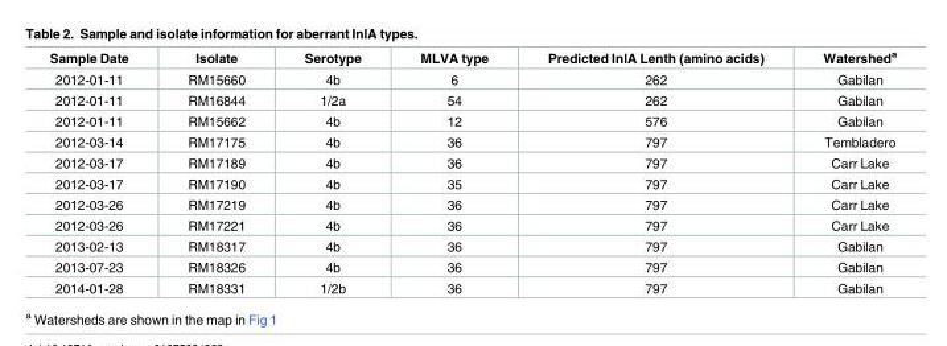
<table><thead><tr><td>Sample Date</td><td>Isolate</td><td>Serotype</td><td>MLVA type</td><td>Predicted InlA Lenth (amino acids)</td><td>Watershed<sup>a</sup></td></tr></thead><tbody><tr><td>2012-01-11</td><td>RM15660</td><td>4b</td><td>6</td><td>262</td><td>Gabilan</td></tr><tr><td>2012-01-11</td><td>RM16844</td><td>1/2a</td><td>54</td><td>262</td><td>Gabilan</td></tr><tr><td>2012-01-11</td><td>RM15662</td><td>4b</td><td>12</td><td>576</td><td>Gabilan</td></tr><tr><td>2012-03-14</td><td>RM17175</td><td>4b</td><td>36</td><td>797</td><td>Tembladero</td></tr><tr><td>2012-03-17</td><td>RM17189</td><td>4b</td><td>36</td><td>797</td><td>Carr Lake</td></tr><tr><td>2012-03-17</td><td>RM17190</td><td>4b</td><td>35</td><td>797</td><td>Carr Lake</td></tr><tr><td>2012-03-26</td><td>RM17219</td><td>4b</td><td>36</td><td>797</td><td>Carr Lake</td></tr><tr><td>2012-03-26</td><td>RM17221</td><td>4b</td><td>36</td><td>797</td><td>Carr Lake</td></tr><tr><td>2013-02-13</td><td>RM18317</td><td>4b</td><td>36</td><td>797</td><td>Gabilan</td></tr><tr><td>2013-07-23</td><td>RM18326</td><td>4b</td><td>36</td><td>797</td><td>Gabilan</td></tr><tr><td>2014-01-28</td><td>RM18331</td><td>1/2b</td><td>36</td><td>797</td><td>Gabilan</td></tr></tbody></table>